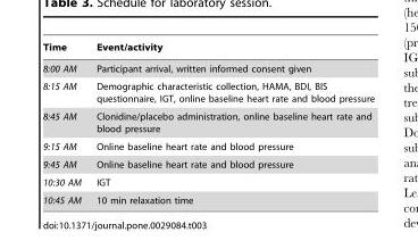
<table><thead><tr><td>Time</td><td>Event/activity</td></tr></thead><tbody><tr><td>8:00 AM</td><td>Participant arrival, written informed consent given</td></tr><tr><td>8:15 AM</td><td>Demographic characteristic collection, HAMA, BDI, BIS questionnaire, IGT, online baseline heart rate and blood pressure</td></tr><tr><td>8:45 AM</td><td>Clonidine/placebo administration, online baseline heart rate and blood pressure</td></tr><tr><td>9:15 AM</td><td>Online baseline heart rate and blood pressure</td></tr><tr><td>9:45 AM</td><td>Online baseline heart rate and blood pressure</td></tr><tr><td>10:30 AM</td><td>IGT</td></tr><tr><td>10:45 AM</td><td>10 min relaxation time</td></tr></tbody></table>